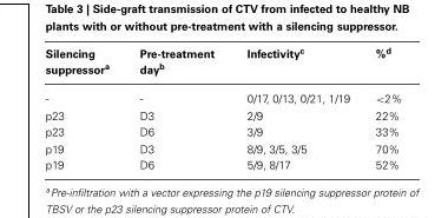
<table><thead><tr><td>Silencing suppressor<sup>a</sup></td><td>Pre-treatment day<sup>b</sup></td><td>Infectivity<sup>c</sup></td><td>%<sup>d</sup></td></tr></thead><tbody><tr><td>-</td><td>-</td><td>0/17, 0/13, 0/21, 1/19</td><td>&lt;2%</td></tr><tr><td>p23 p23</td><td>D3 D6</td><td>2/9 3/9</td><td>22% 33%</td></tr><tr><td>p19 p19</td><td>D3 D6</td><td>8/9, 3/5, 3/5 5/9, 8/17</td><td>70% 52%</td></tr></tbody></table>